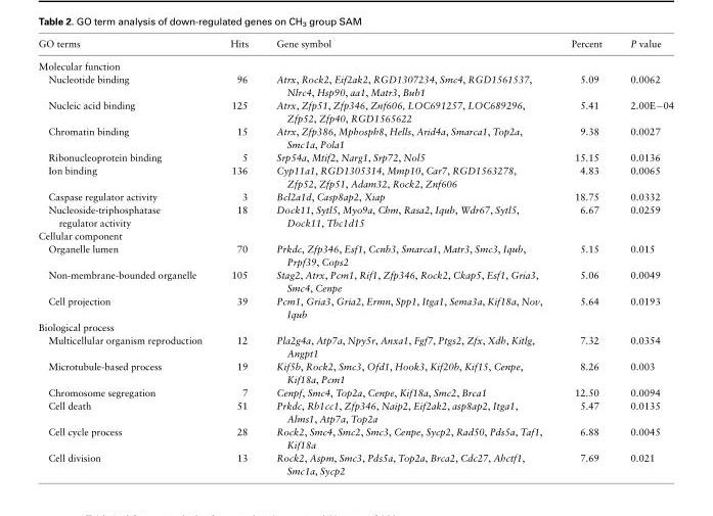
<table><thead><tr><td>GO terms</td><td>Hits</td><td>Gene symbol</td><td>Percent</td><td>P value</td></tr></thead><tbody><tr><td colspan="5">Molecular function</td></tr><tr><td>Nucleotide binding</td><td>96</td><td>Atrx, Rock2, Eif2ak2, RGD1307234, Smc4, RGD1561537, Nlrc4, Hsp90, aa1, Matr3, Bub1</td><td>5.09</td><td>0.0062</td></tr><tr><td>Nucleic acid binding</td><td>125</td><td>Atrx, Zfp51, Zfp346, Znf606, LOC691257, LOC689296, Zfp52, Zfp40, RGD1565622</td><td>5.41</td><td>2.00E−04</td></tr><tr><td>Chromatin binding</td><td>15</td><td>Atrx, Zfp386, Mphosph8, Hells, Arid4a, Smarca1, Top2a, Smc1a, Pola1</td><td>9.38</td><td>0.0027</td></tr><tr><td>Ribonucleoprotein binding</td><td>5</td><td>Srp54a, Mtif2, Narg1, Srp72, Nol5</td><td>15.15</td><td>0.0136</td></tr><tr><td>Ion binding</td><td>136</td><td>Cyp11a1, RGD1305314, Mmp10, Car7, RGD1563278, Zfp52, Zfp51, Adam32, Rock2, Znf606</td><td>4.83</td><td>0.0065</td></tr><tr><td>Caspase regulator activity</td><td>3</td><td>Bcl2a1d, Casp8ap2, Xiap</td><td>18.75</td><td>0.0332</td></tr><tr><td>Nucleoside-triphosphatase regulator activity</td><td>18</td><td>Dock11, Sytl5, Myo9a, Chm, Rasa2, Iqub, Wdr67, Sytl5, Dock11, Tbc1d15</td><td>6.67</td><td>0.0259</td></tr><tr><td colspan="5">Cellular component</td></tr><tr><td>Organelle lumen</td><td>70</td><td>Prkdc, Zfp346, Esf1, Ccnb3, Smarca1, Matr3, Smc3, Iqub, Prpf39, Cops2</td><td>5.15</td><td>0.015</td></tr><tr><td>Non-membrane-bounded organelle</td><td>105</td><td>Stag2, Atrx, Pcm1, Rif1, Zfp346, Rock2, Ckap5, Esf1, Gria3, Smc4, Cenpe</td><td>5.06</td><td>0.0049</td></tr><tr><td>Cell projection</td><td>39</td><td>Pcm1, Gria3, Gria2, Ermn, Spp1, Itga1, Sema3a, Kif18a, Nov, Iqub</td><td>5.64</td><td>0.0193</td></tr><tr><td colspan="5">Biological process</td></tr><tr><td>Multicellular organism reproduction</td><td>12</td><td>Pla2g4a, Atp7a, Npy5r, Anxa1, Fgf7, Ptgs2, Zfx, Xdh, Kitlg, Angpt1</td><td>7.32</td><td>0.0354</td></tr><tr><td>Microtubule-based process</td><td>19</td><td>Kif5b, Rock2, Smc3, Ofd1, Hook3, Kif20b, Kif15, Cenpe, Kif18a, Pcm1</td><td>8.26</td><td>0.003</td></tr><tr><td>Chromosome segregation</td><td>7</td><td>Cenpf, Smc4, Top2a, Cenpe, Kif18a, Smc2, Brca1</td><td>12.50</td><td>0.0094</td></tr><tr><td>Cell death</td><td>51</td><td>Prkdc, Rb1cc1, Zfp346, Naip2, Eif2ak2, asp8ap2, Itga1, Alms1, Atp7a, Top2a</td><td>5.47</td><td>0.0135</td></tr><tr><td>Cell cycle process</td><td>28</td><td>Rock2, Smc4, Smc2, Smc3, Cenpe, Sycp2, Rad50, Pds5a, Taf1, Kif18a</td><td>6.88</td><td>0.0045</td></tr><tr><td>Cell division</td><td>13</td><td>Rock2, Aspm, Smc3, Pds5a, Top2a, Brca2, Cdc27, Ahctf1, Smc1a, Sycp2</td><td>7.69</td><td>0.021</td></tr></tbody></table>